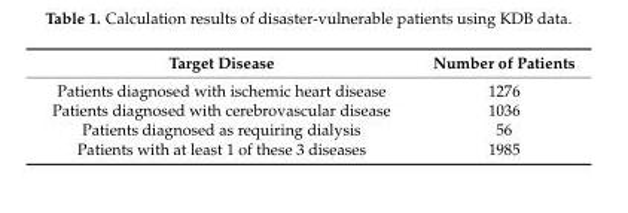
<table><thead><tr><td>Target Disease</td><td>Number of Patients</td></tr></thead><tbody><tr><td>Patients diagnosed with ischemic heart disease</td><td>1276</td></tr><tr><td>Patients diagnosed with cerebrovascular disease</td><td>1036</td></tr><tr><td>Patients diagnosed as requiring dialysis</td><td>56</td></tr><tr><td>Patients with at least 1 of these 3 diseases</td><td>1985</td></tr></tbody></table>